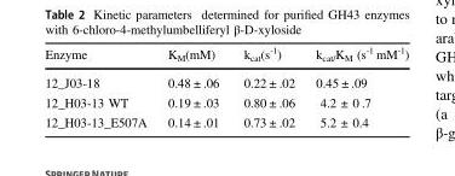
<table><thead><tr><td>Enzyme</td><td>K<sub>M</sub>(mM)</td><td>k<sub>cat</sub>(s<sup>-1</sup>)</td><td>k<sub>cat/</sub>K<sub>M</sub> (s<sup>-1</sup> mM<sup>-1</sup>)</td></tr></thead><tbody><tr><td>12_J03-18</td><td>0.48 ± .06</td><td>0.22 ± .02</td><td>0.45 ± .09</td></tr><tr><td>12_H03-13 WT</td><td>0.19 ± .03</td><td>0.80 ± .06</td><td>4.2 ± 0 .7</td></tr><tr><td>12_H03-13_E507A</td><td>0.14 ± .01</td><td>0.73 ± .02</td><td>5.2 ± 0.4</td></tr></tbody></table>